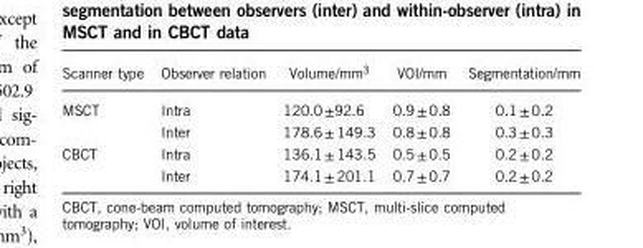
<table><thead><tr><td>Scanner type</td><td>Observer relation</td><td>Volume/mm<sup>3</sup></td><td>VOI/mm</td><td>Segmentation/mm</td></tr></thead><tbody><tr><td rowspan="2">MSCT</td><td>Intra</td><td>120.0±92.6</td><td>0.9± 0.8</td><td>0.1 ± 0.2</td></tr><tr><td>Inter</td><td>178.6± 149.3</td><td>0.8± 0.8</td><td>0.3 ± 0.3</td></tr><tr><td rowspan="2">CBCT</td><td>Intra</td><td>136.1± 143.5</td><td>0.5± 0.5</td><td>0.2 ± 0.2</td></tr><tr><td>Inter</td><td>174.1± 201.1</td><td>0.7± 0.7</td><td>0.2 ± 0.2</td></tr></tbody></table>